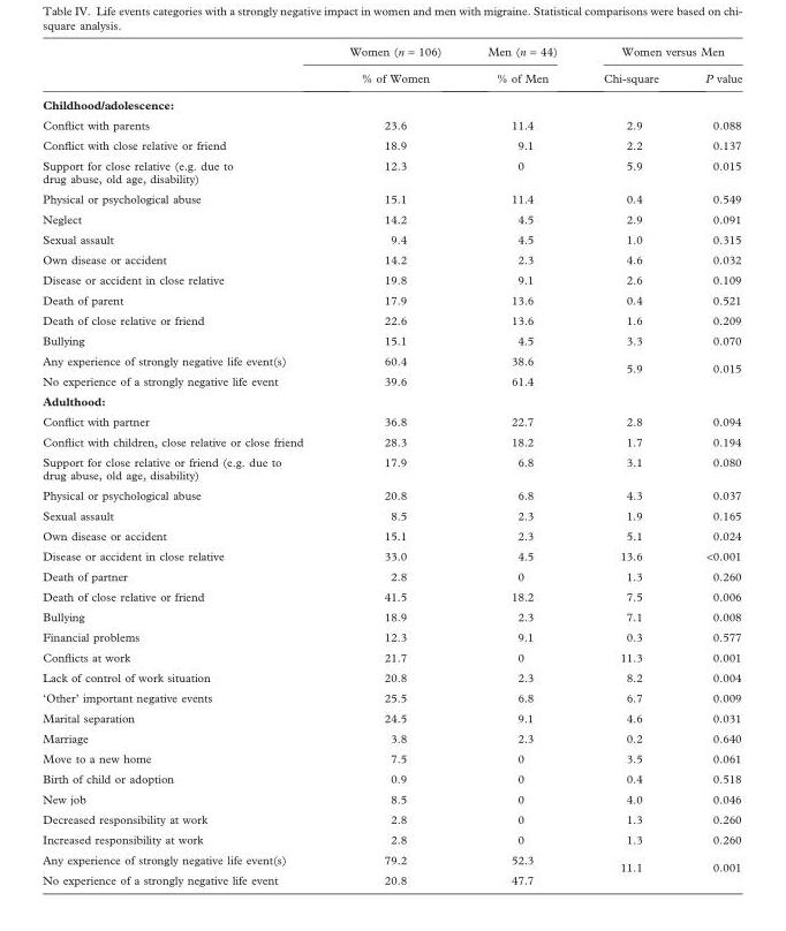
<table><thead><tr><td rowspan="2"></td><td rowspan="2">Women (n = 106) % of Women</td><td rowspan="2">Men (n = 44) % of Men</td><td colspan="2">Women versus Men</td></tr><tr><td>Chi-square</td><td>P value</td></tr></thead><tbody><tr><td colspan="5">Childhood/adolescence:</td></tr><tr><td>Conflict with parents</td><td>23.6</td><td>11.4</td><td>2.9</td><td>0.088</td></tr><tr><td>Conflict with close relative or friend</td><td>18.9</td><td>9.1</td><td>2.2</td><td>0.137</td></tr><tr><td>Support for close relative (e.g. due to drug abuse, old age, disability)</td><td>12.3</td><td>0</td><td>5.9</td><td>0.015</td></tr><tr><td>Physical or psychological abuse</td><td>15.1</td><td>11.4</td><td>0.4</td><td>0.549</td></tr><tr><td>Neglect</td><td>14.2</td><td>4.5</td><td>2.9</td><td>0.091</td></tr><tr><td>Sexual assault</td><td>9.4</td><td>4.5</td><td>1.0</td><td>0.315</td></tr><tr><td>Own disease or accident</td><td>14.2</td><td>2.3</td><td>4.6</td><td>0.032</td></tr><tr><td>Disease or accident in close relative</td><td>19.8</td><td>9.1</td><td>2.6</td><td>0.109</td></tr><tr><td>Death of parent</td><td>17.9</td><td>13.6</td><td>0.4</td><td>0.521</td></tr><tr><td>Death of close relative or friend</td><td>22.6</td><td>13.6</td><td>1.6</td><td>0.209</td></tr><tr><td>Bullying</td><td>15.1</td><td>4.5</td><td>3.3</td><td>0.070</td></tr><tr><td>Any experience of strongly negative life event(s)</td><td>60.4</td><td>38.6</td><td rowspan="2">5.9</td><td rowspan="2">0.015</td></tr><tr><td>No experience of a strongly negative life event</td><td>39.6</td><td>61.4</td></tr><tr><td colspan="5">Adulthood:</td></tr><tr><td>Conflict with partner</td><td>36.8</td><td>22.7</td><td>2.8</td><td>0.094</td></tr><tr><td>Conflict with children, close relative or close friend</td><td>28.3</td><td>18.2</td><td>1.7</td><td>0.194</td></tr><tr><td>Support for close relative or friend (e.g. due to drug abuse, old age, disability)</td><td>17.9</td><td>6.8</td><td>3.1</td><td>0.080</td></tr><tr><td>Physical or psychological abuse</td><td>20.8</td><td>6.8</td><td>4.3</td><td>0.037</td></tr><tr><td>Sexual assault</td><td>8.5</td><td>2.3</td><td>1.9</td><td>0.165</td></tr><tr><td>Own disease or accident</td><td>15.1</td><td>2.3</td><td>5.1</td><td>0.024</td></tr><tr><td>Disease or accident in close relative</td><td>33.0</td><td>4.5</td><td>13.6</td><td>&lt;0.001</td></tr><tr><td>Death of partner</td><td>2.8</td><td>0</td><td>1.3</td><td>0.260</td></tr><tr><td>Death of close relative or friend</td><td>41.5</td><td>18.2</td><td>7.5</td><td>0.006</td></tr><tr><td>Bullying</td><td>18.9</td><td>2.3</td><td>7.1</td><td>0.008</td></tr><tr><td>Financial problems</td><td>12.3</td><td>9.1</td><td>0.3</td><td>0.577</td></tr><tr><td>Conflicts at work</td><td>21.7</td><td>0</td><td>11.3</td><td>0.001</td></tr><tr><td>Lack of control of work situation</td><td>20.8</td><td>2.3</td><td>8.2</td><td>0.004</td></tr><tr><td>‘Other’ important negative events</td><td>25.5</td><td>6.8</td><td>6.7</td><td>0.009</td></tr><tr><td>Marital separation</td><td>24.5</td><td>9.1</td><td>4.6</td><td>0.031</td></tr><tr><td>Marriage</td><td>3.8</td><td>2.3</td><td>0.2</td><td>0.640</td></tr><tr><td>Move to a new home</td><td>7.5</td><td>0</td><td>3.5</td><td>0.061</td></tr><tr><td>Birth of child or adoption</td><td>0.9</td><td>0</td><td>0.4</td><td>0.518</td></tr><tr><td>New job</td><td>8.5</td><td>0</td><td>4.0</td><td>0.046</td></tr><tr><td>Decreased responsibility at work</td><td>2.8</td><td>0</td><td>1.3</td><td>0.260</td></tr><tr><td>Increased responsibility at work</td><td>2.8</td><td>0</td><td>1.3</td><td>0.260</td></tr><tr><td>Any experience of strongly negative life event(s)</td><td>79.2</td><td>52.3</td><td rowspan="2">11.1</td><td rowspan="2">0.001</td></tr><tr><td>No experience of a strongly negative life event</td><td>20.8</td><td>47.7</td></tr></tbody></table>